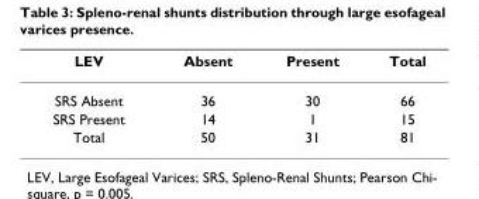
<table><thead><tr><td>LEV</td><td>Absent</td><td>Present</td><td>Total</td></tr></thead><tbody><tr><td>SRS Absent</td><td>36</td><td>30</td><td>66</td></tr><tr><td>SRS Present</td><td>14</td><td>1</td><td>15</td></tr><tr><td>Total</td><td>50</td><td>31</td><td>81</td></tr></tbody></table>